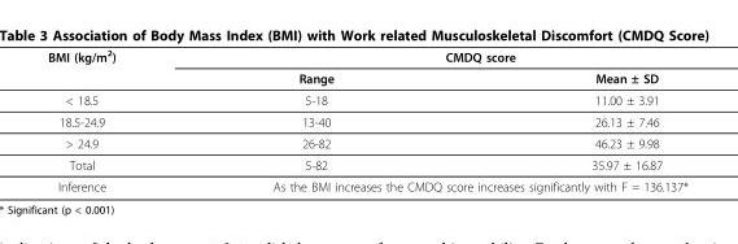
<table><thead><tr><td rowspan="2">BMI (kg/m<sup>2</sup>)</td><td colspan="2">CMDQ score</td></tr><tr><td>Range</td><td>Mean ± SD</td></tr></thead><tbody><tr><td>&lt; 18.5</td><td>5-18</td><td>11.00 ± 3.91</td></tr><tr><td>18.5-24.9</td><td>13-40</td><td>26.13 ± 7.46</td></tr><tr><td>&gt; 24.9</td><td>26-82</td><td>46.23 ± 9.98</td></tr><tr><td>Total</td><td>5-82</td><td>35.97 ± 16.87</td></tr><tr><td>Inference</td><td colspan="2">As the BMI increases the CMDQ score increases significantly with F = 136.137*</td></tr></tbody></table>